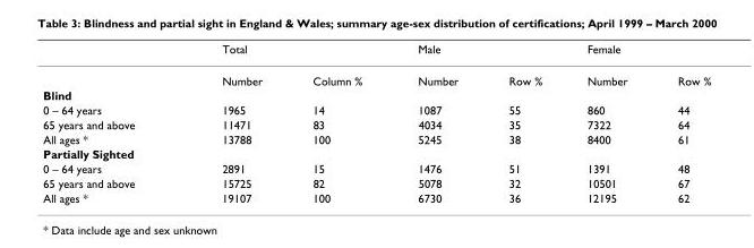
<table><thead><tr><td rowspan="2"></td><td colspan="2">Total</td><td colspan="2">Male</td><td colspan="2">Female</td></tr><tr><td>Number</td><td>Column %</td><td>Number</td><td>Row %</td><td>Number</td><td>Row %</td></tr></thead><tbody><tr><td colspan="7">Blind</td></tr><tr><td>0 – 64 years</td><td>1965</td><td>14</td><td>1087</td><td>55</td><td>860</td><td>44</td></tr><tr><td>65 years and above</td><td>11471</td><td>83</td><td>4034</td><td>35</td><td>7322</td><td>64</td></tr><tr><td>All ages *</td><td>13788</td><td>100</td><td>5245</td><td>38</td><td>8400</td><td>61</td></tr><tr><td colspan="7">Partially Sighted</td></tr><tr><td>0 – 64 years</td><td>2891</td><td>15</td><td>1476</td><td>51</td><td>1391</td><td>48</td></tr><tr><td>65 years and above</td><td>15725</td><td>82</td><td>5078</td><td>32</td><td>10501</td><td>67</td></tr><tr><td>All ages *</td><td>19107</td><td>100</td><td>6730</td><td>36</td><td>12195</td><td>62</td></tr></tbody></table>